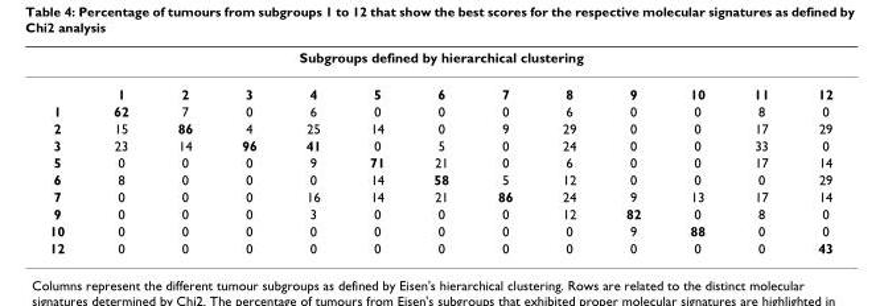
<table><thead><tr><td colspan="13">Subgroups defined by hierarchical clustering</td></tr><tr><td></td><td>1</td><td>2</td><td>3</td><td>4</td><td>5</td><td>6</td><td>7</td><td>8</td><td>9</td><td>10</td><td>11</td><td>12</td></tr></thead><tbody><tr><td>1</td><td>62</td><td>7</td><td>0</td><td>6</td><td>0</td><td>0</td><td>0</td><td>6</td><td>0</td><td>0</td><td>8</td><td>0</td></tr><tr><td>2</td><td>15</td><td>86</td><td>4</td><td>25</td><td>14</td><td>0</td><td>9</td><td>29</td><td>0</td><td>0</td><td>17</td><td>29</td></tr><tr><td>3</td><td>23</td><td>14</td><td>96</td><td>41</td><td>0</td><td>5</td><td>0</td><td>24</td><td>0</td><td>0</td><td>33</td><td>0</td></tr><tr><td>5</td><td>0</td><td>0</td><td>0</td><td>9</td><td>71</td><td>21</td><td>0</td><td>6</td><td>0</td><td>0</td><td>17</td><td>14</td></tr><tr><td>6</td><td>8</td><td>0</td><td>0</td><td>0</td><td>14</td><td>58</td><td>5</td><td>12</td><td>0</td><td>0</td><td>0</td><td>29</td></tr><tr><td>7</td><td>0</td><td>0</td><td>0</td><td>16</td><td>14</td><td>21</td><td>86</td><td>24</td><td>9</td><td>13</td><td>17</td><td>14</td></tr><tr><td>9</td><td>0</td><td>0</td><td>0</td><td>3</td><td>0</td><td>0</td><td>0</td><td>12</td><td>82</td><td>0</td><td>8</td><td>0</td></tr><tr><td>10</td><td>0</td><td>0</td><td>0</td><td>0</td><td>0</td><td>0</td><td>0</td><td>0</td><td>9</td><td>88</td><td>0</td><td>0</td></tr><tr><td>12</td><td>0</td><td>0</td><td>0</td><td>0</td><td>0</td><td>0</td><td>0</td><td>0</td><td>0</td><td>0</td><td>0</td><td>43</td></tr></tbody></table>